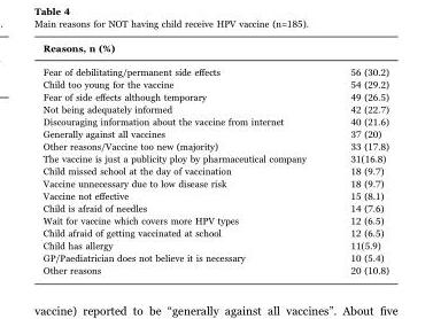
<table><thead><tr><td>Reasons, n (%)</td><td></td></tr></thead><tbody><tr><td>Fear of debilitating/permanent side effects</td><td>56 (30.2)</td></tr><tr><td>Child too young for the vaccine</td><td>54 (29.2)</td></tr><tr><td>Fear of side effects although temporary</td><td>49 (26.5)</td></tr><tr><td>Not being adequately informed</td><td>42 (22.7)</td></tr><tr><td>Discouraging information about the vaccine from internet</td><td>40 (21.6)</td></tr><tr><td>Generally against all vaccines</td><td>37 (20)</td></tr><tr><td>Other reasons/Vaccine too new (majority)</td><td>33 (17.8)</td></tr><tr><td>The vaccine is just a publicity ploy by pharmaceutical company</td><td>31(16.8)</td></tr><tr><td>Child missed school at the day of vaccination</td><td>18 (9.7)</td></tr><tr><td>Vaccine unnecessary due to low disease risk</td><td>18 (9.7)</td></tr><tr><td>Vaccine not effective</td><td>15 (8.1)</td></tr><tr><td>Child is afraid of needles</td><td>14 (7.6)</td></tr><tr><td>Wait for vaccine which covers more HPV types</td><td>12 (6.5)</td></tr><tr><td>Child afraid of getting vaccinated at school</td><td>12 (6.5)</td></tr><tr><td>Child has allergy</td><td>11(5.9)</td></tr><tr><td>GP/Paediatrician does not believe it is necessary</td><td>10 (5.4)</td></tr><tr><td>Other reasons</td><td>20 (10.8)</td></tr></tbody></table>